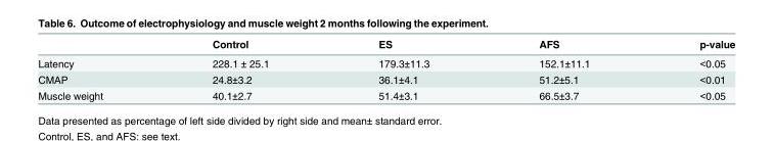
<table><thead><tr><td></td><td>Control</td><td>ES</td><td>AFS</td><td>p-value</td></tr></thead><tbody><tr><td>Latency</td><td>228.1 ± 25.1</td><td>179.3±11.3</td><td>152.1±11.1</td><td>&lt;0.05</td></tr><tr><td>CMAP</td><td>24.8±3.2</td><td>36.1±4.1</td><td>51.2±5.1</td><td>&lt;0.01</td></tr><tr><td>Muscle weight</td><td>40.1±2.7</td><td>51.4±3.1</td><td>66.5±3.7</td><td>&lt;0.05</td></tr></tbody></table>